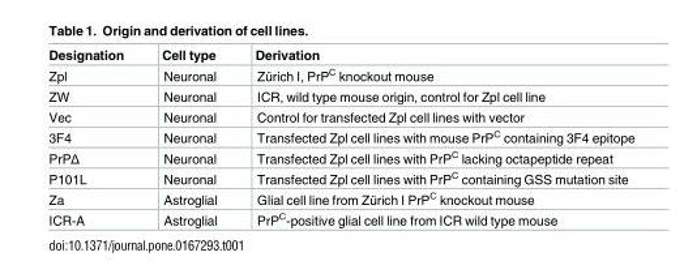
<table><thead><tr><td>Designation</td><td>Cell type</td><td>Derivation</td></tr></thead><tbody><tr><td>Zpl</td><td>Neuronal</td><td>Zu¨rich I, PrPC knockout mouse</td></tr><tr><td>ZW</td><td>Neuronal</td><td>ICR, wild type mouse origin, control for Zpl cell line</td></tr><tr><td>Vec</td><td>Neuronal</td><td>Control for transfected Zpl cell lines with vector</td></tr><tr><td>3F4</td><td>Neuronal</td><td>Transfected Zpl cell lines with mouse PrP<sup>C</sup> containing 3F4 epitope</td></tr><tr><td>PrPΔ</td><td>Neuronal</td><td>Transfected Zpl cell lines with PrP<sup>C</sup> lacking octapeptide repeat</td></tr><tr><td>P101L</td><td>Neuronal</td><td>Transfected Zpl cell lines with PrP<sup>C</sup> containing GSS mutation site</td></tr><tr><td>Za</td><td>Astroglial</td><td>Glial cell line from Zu¨rich I PrPC knockout mouse</td></tr><tr><td>ICR-A</td><td>Astroglial</td><td>PrP<sup>C</sup>-positive glial cell line from ICR wild type mouse</td></tr></tbody></table>